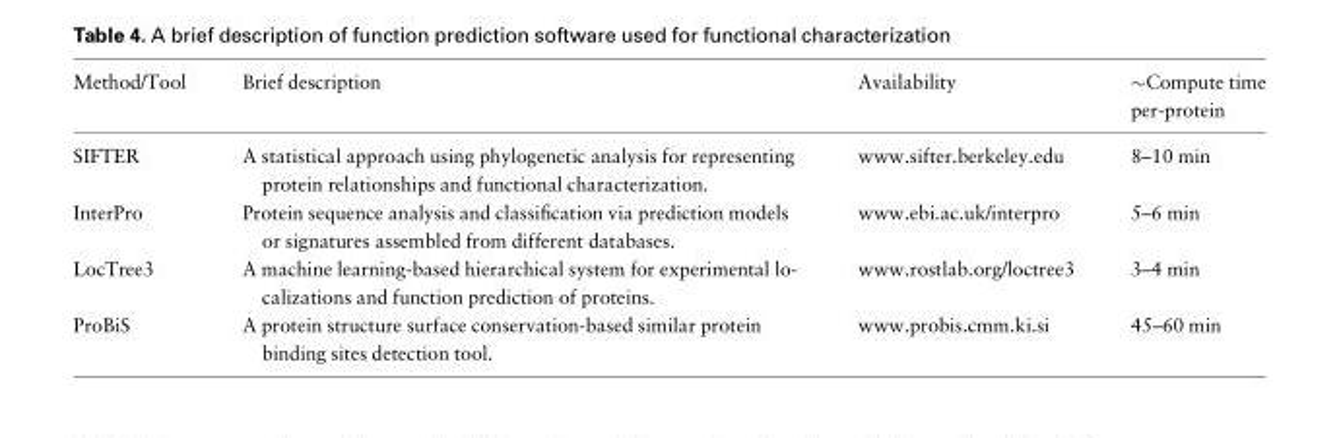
<table><thead><tr><td>Method/Tool</td><td>Brief description</td><td>Availability</td><td>∼Compute time per-protein</td></tr></thead><tbody><tr><td>SIFTER</td><td>A statistical approach using phylogenetic analysis for representing protein relationships and functional characterization.</td><td>www.sifter.berkeley.edu</td><td>8–10 min</td></tr><tr><td>InterPro</td><td>Protein sequence analysis and classification via prediction models or signatures assembled from different databases.</td><td>www.ebi.ac.uk/interpro</td><td>5–6 min</td></tr><tr><td>LocTree3</td><td>A machine learning-based hierarchical system for experimental lo- calizations and function prediction of proteins.</td><td>www.rostlab.org/loctree3</td><td>3–4 min</td></tr><tr><td>ProBiS</td><td>A protein structure surface conservation-based similar protein binding sites detection tool.</td><td>www.probis.cmm.ki.si</td><td>45–60 min</td></tr></tbody></table>